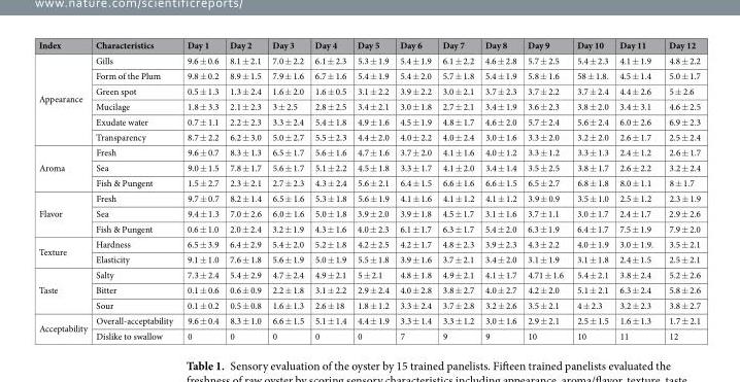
<table><thead><tr><td>Index</td><td>Characteristics</td><td>Day 1</td><td>Day 2</td><td>Day 3</td><td>Day 4</td><td>Day 5</td><td>Day 6</td><td>Day 7</td><td>Day 8</td><td>Day 9</td><td>Day 10</td><td>Day 11</td><td>Day 12</td></tr></thead><tbody><tr><td rowspan="6">Appearance</td><td>Gills</td><td>9.6 ± 0.6</td><td>8.1 ± 2.1</td><td>7.0 ± 2.2</td><td>6.1 ± 2.3</td><td>5.3 ± 1.9</td><td>5.4 ± 1.9</td><td>6.1 ± 2.2</td><td>4.6 ± 2.8</td><td>5.7 ± 2.5</td><td>5.4 ± 2.3</td><td>4.1 ± 1.9</td><td>4.8 ± 2.2</td></tr><tr><td>Form of the Plum</td><td>9.8 ± 0.2</td><td>8.9 ± 1.5</td><td>7.9 ± 1.6</td><td>6.7 ± 1.6</td><td>5.4 ± 1.9</td><td>5.4 ± 2.0</td><td>5.7 ± 1.8</td><td>5.4 ± 1.9</td><td>5.8 ± 1.6</td><td>58 ± 1.8.</td><td>4.5 ± 1.4</td><td>5.0 ± 1.7</td></tr><tr><td>Green spot</td><td>0.5 ± 1.3</td><td>1.3 ± 2.4</td><td>1.6 ± 2.0</td><td>1.6 ± 0.5</td><td>3.1 ± 2.2</td><td>3.9 ± 2.2</td><td>3.0 ± 2.1</td><td>3.7 ± 2.3</td><td>3.7 ± 2.2</td><td>3.7 ± 2.4</td><td>4.4 ± 2.6</td><td>5 ± 2.6</td></tr><tr><td>Mucilage</td><td>1.8 ± 3.3</td><td>2.1 ± 2.3</td><td>3 ± 2.5</td><td>2.8 ± 2.5</td><td>3.4 ± 2.1</td><td>3.0 ± 1.8</td><td>2.7 ± 2.1</td><td>3.4 ± 1.9</td><td>3.6 ± 2.3</td><td>3.8 ± 2.0</td><td>3.4 ± 3.1</td><td>4.6 ± 2.5</td></tr><tr><td>Exudate water</td><td>0.7 ± 1.1</td><td>2.2 ± 2.3</td><td>3.3 ± 2.4</td><td>5.4 ± 1.8</td><td>4.9 ± 1.6</td><td>4.5 ± 1.9</td><td>4.8 ± 1.7</td><td>4.6 ± 2.0</td><td>5.7 ± 2.4</td><td>5.6 ± 2.4</td><td>6.0 ± 2.6</td><td>6.9 ± 2.3</td></tr><tr><td>Transparency</td><td>8.7 ± 2.2</td><td>6.2 ± 3.0</td><td>5.0 ± 2.7</td><td>5.5 ± 2.3</td><td>4.4 ± 2.0</td><td>4.0 ± 2.2</td><td>4.0 ± 2.4</td><td>3.0 ± 1.6</td><td>3.3 ± 2.0</td><td>3.2 ± 2.0</td><td>2.6 ± 1.7</td><td>2.5 ± 2.4</td></tr><tr><td rowspan="3">Aroma</td><td>Fresh</td><td>9.6 ± 0.7</td><td>8.3 ± 1.3</td><td>6.5 ± 1.7</td><td>5.6 ± 1.6</td><td>4.7 ± 1.6</td><td>3.7 ± 2.0</td><td>4.1 ± 1.6</td><td>4.0 ± 1.2</td><td>3.3 ± 1.2</td><td>3.3 ± 1.3</td><td>2.4 ± 1.2</td><td>2.6 ± 1.7</td></tr><tr><td>Sea</td><td>9.0 ± 1.5</td><td>7.8 ± 1.7</td><td>5.6 ± 1.7</td><td>5.1 ± 2.2</td><td>4.5 ± 1.8</td><td>3.3 ± 1.7</td><td>4.1 ± 2.0</td><td>3.4 ± 1.4</td><td>3.5 ± 2.5</td><td>3.8 ± 1.7</td><td>2.6 ± 2.2</td><td>3.2 ± 2.4</td></tr><tr><td>Fish &amp; Pungent</td><td>1.5 ± 2.7</td><td>2.3 ± 2.1</td><td>2.7 ± 2.3</td><td>4.3 ± 2.4</td><td>5.6 ± 2.1</td><td>6.4 ± 1.5</td><td>6.6 ± 1.6</td><td>6.6 ± 1.5</td><td>6.5 ± 2.7</td><td>6.8 ± 1.8</td><td>8.0 ± 1.1</td><td>8 ± 1.7</td></tr><tr><td rowspan="3">Flavor</td><td>Fresh</td><td>9.7 ± 0.7</td><td>8.2 ± 1.4</td><td>6.5 ± 1.6</td><td>5.3 ± 1.8</td><td>5.6 ± 1.9</td><td>4.1 ± 1.6</td><td>4.1 ± 1.2</td><td>4.1 ± 1.2</td><td>3.9 ± 0.9</td><td>3.5 ± 1.0</td><td>2.5 ± 1.2</td><td>2.3 ± 1.9</td></tr><tr><td>Sea</td><td>9.4 ± 1.3</td><td>7.0 ± 2.6</td><td>6.0 ± 1.6</td><td>5.0 ± 1.8</td><td>3.9 ± 2.0</td><td>3.9 ± 1.8</td><td>4.5 ± 1.7</td><td>3.1 ± 1.6</td><td>3.7 ± 1.1</td><td>3.0 ± 1.7</td><td>2.4 ± 1.7</td><td>2.9 ± 2.6</td></tr><tr><td>Fish &amp; Pungent</td><td>0.6 ± 1.0</td><td>2.0 ± 2.4</td><td>3.2 ± 1.9</td><td>4.3 ± 1.6</td><td>4.0 ± 2.3</td><td>6.1 ± 1.7</td><td>6.3 ± 1.7</td><td>5.4 ± 2.0</td><td>6.3 ± 1.9</td><td>6.4 ± 1.7</td><td>7.5 ± 1.9</td><td>7.9 ± 2.0</td></tr><tr><td rowspan="2">Texture</td><td>Hardness</td><td>6.5 ± 3.9</td><td>6.4 ± 2.9</td><td>5.4 ± 2.0</td><td>5.2 ± 1.8</td><td>4.2 ± 2.5</td><td>4.2 ± 1.7</td><td>4.8 ± 2.3</td><td>3.9 ± 2.3</td><td>4.3 ± 2.2</td><td>4.0 ± 1.9</td><td>3.0 ± 1.9.</td><td>3.5 ± 2.1</td></tr><tr><td>Elasticity</td><td>9.1 ± 1.0</td><td>7.6 ± 1.8</td><td>5.6 ± 1.9</td><td>5.0 ± 1.9</td><td>5.5 ± 1.8</td><td>3.9 ± 1.6</td><td>3.7 ± 2.1</td><td>3.4 ± 2.0</td><td>3.1 ± 1.9</td><td>3.1 ± 1.8</td><td>2.4 ± 1.5</td><td>2.5 ± 2.1</td></tr><tr><td rowspan="3">Taste</td><td>Salty</td><td>7.3 ± 2.4</td><td>5.4 ± 2.9</td><td>4.7 ± 2.4</td><td>4.9 ± 2.1</td><td>5 ± 2.1</td><td>4.8 ± 1.8</td><td>4.9 ± 2.1</td><td>4.1 ± 1.7</td><td>4.71 ± 1.6</td><td>5.4 ± 2.1</td><td>3.8 ± 2.4</td><td>5.2 ± 2.6</td></tr><tr><td>Bitter</td><td>0.1 ± 0.6</td><td>0.6 ± 0.9</td><td>2.2 ± 1.8</td><td>3.1 ± 2.2</td><td>2.9 ± 2.4</td><td>4.0 ± 2.8</td><td>3.8 ± 2.7</td><td>4.0 ± 2.7</td><td>4.2 ± 2.0</td><td>5.1 ± 2.1</td><td>6.3 ± 2.4</td><td>5.8 ± 2.6</td></tr><tr><td>Sour</td><td>0.1 ± 0.2</td><td>0.5 ± 0.8</td><td>1.6 ± 1.3</td><td>2.6 ± 18</td><td>1.8 ± 1.2</td><td>3.3 ± 2.4</td><td>3.7 ± 2.8</td><td>3.2 ± 2.6</td><td>3.5 ± 2.1</td><td>4 ± 2.3</td><td>3.2 ± 2.3</td><td>3.8 ± 2.7</td></tr><tr><td rowspan="2">Acceptability</td><td>Overall-acceptability</td><td>9.6 ± 0.4</td><td>8.3 ± 1.0</td><td>6.6 ± 1.5</td><td>5.1 ± 1.4</td><td>4.4 ± 1.9</td><td>3.3 ± 1.4</td><td>3.3 ± 1.2</td><td>3.0 ± 1.6</td><td>2.9 ± 2.1</td><td>2.5 ± 1.5</td><td>1.6 ± 1.3</td><td>1.7 ± 2.1</td></tr><tr><td>Dislike to swallow</td><td>0</td><td>0</td><td>0</td><td>0</td><td>0</td><td>7</td><td>9</td><td>9</td><td>10</td><td>10</td><td>11</td><td>12</td></tr></tbody></table>